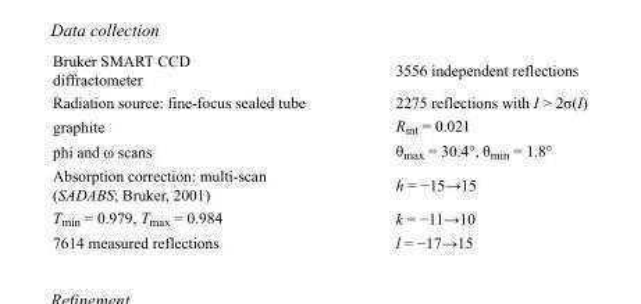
<table><tbody><tr><td>Bruker SMART CCD diffractometer</td><td>3556 independent reflections</td></tr><tr><td>Radiation source: fine-focus sealed tube</td><td>2275 reflections with I &gt; 2σ(I)</td></tr><tr><td>graphite</td><td>R<sub>int</sub> = 0.021</td></tr><tr><td>phi and ω scans</td><td>θ<sub>max</sub> = 30.4°, θ<sub>min</sub> = 1.8°</td></tr><tr><td>Absorption correction: multi-scan (SADABS; Bruker, 2001)</td><td>h = −15→15</td></tr><tr><td>T<sub>min</sub> = 0.979, T<sub>max</sub> = 0.984</td><td>k = −11→10</td></tr><tr><td>7614 measured reflections</td><td>l = −17→15</td></tr></tbody></table>